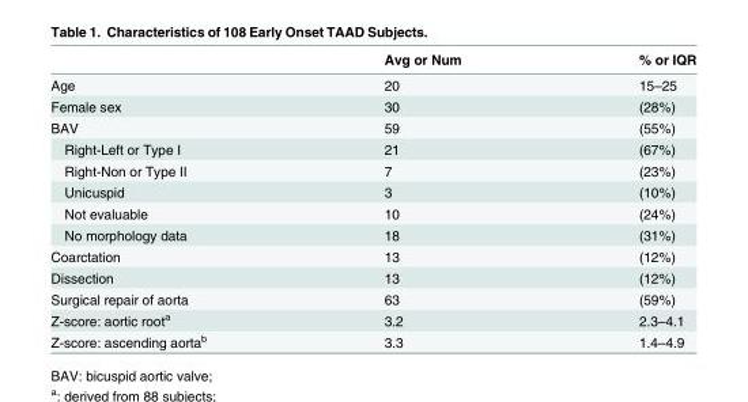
<table><thead><tr><td></td><td>Avg or Num</td><td>% or IQR</td></tr></thead><tbody><tr><td>Age</td><td>20</td><td>15–25</td></tr><tr><td>Female sex</td><td>30</td><td>(28%)</td></tr><tr><td>BAV</td><td>59</td><td>(55%)</td></tr><tr><td>Right-Left or Type I</td><td>21</td><td>(67%)</td></tr><tr><td>Right-Non or Type II</td><td>7</td><td>(23%)</td></tr><tr><td>Unicuspid</td><td>3</td><td>(10%)</td></tr><tr><td>Not evaluable</td><td>10</td><td>(24%)</td></tr><tr><td>No morphology data</td><td>18</td><td>(31%)</td></tr><tr><td>Coarctation</td><td>13</td><td>(12%)</td></tr><tr><td>Dissection</td><td>13</td><td>(12%)</td></tr><tr><td>Surgical repair of aorta</td><td>63</td><td>(59%)</td></tr><tr><td>Z-score: aortic root<sup>a</sup></td><td>3.2</td><td>2.3–4.1</td></tr><tr><td>Z-score: ascending aorta<sup>b</sup></td><td>3.3</td><td>1.4–4.9</td></tr></tbody></table>